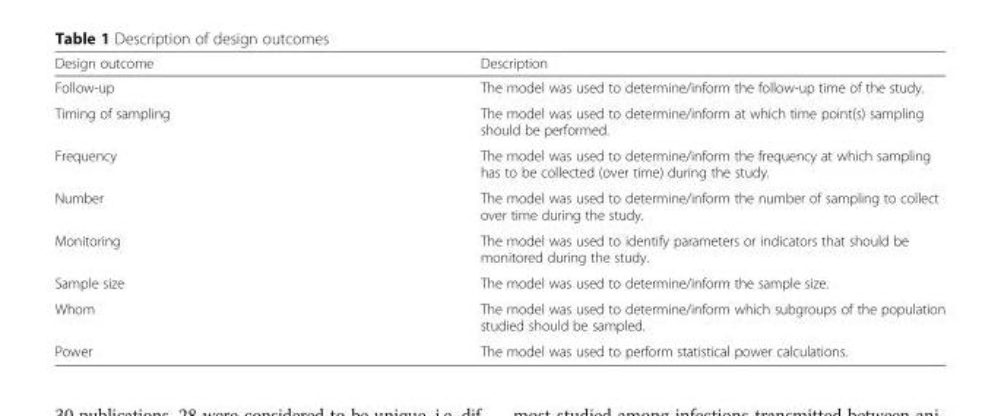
<table><thead><tr><td>Design outcome</td><td>Description</td></tr></thead><tbody><tr><td>Follow-up</td><td>The model was used to determine/inform the follow-up time of the study.</td></tr><tr><td>Timing of sampling</td><td>The model was used to determine/inform at which time point(s) sampling should be performed.</td></tr><tr><td>Frequency</td><td>The model was used to determine/inform the frequency at which sampling has to be collected (over time) during the study.</td></tr><tr><td>Number</td><td>The model was used to determine/inform the number of sampling to collect over time during the study.</td></tr><tr><td>Monitoring</td><td>The model was used to identify parameters or indicators that should be monitored during the study.</td></tr><tr><td>Sample size</td><td>The model was used to determine/inform the sample size.</td></tr><tr><td>Whom</td><td>The model was used to determine/inform which subgroups of the population studied should be sampled.</td></tr><tr><td>Power</td><td>The model was used to perform statistical power calculations.</td></tr></tbody></table>